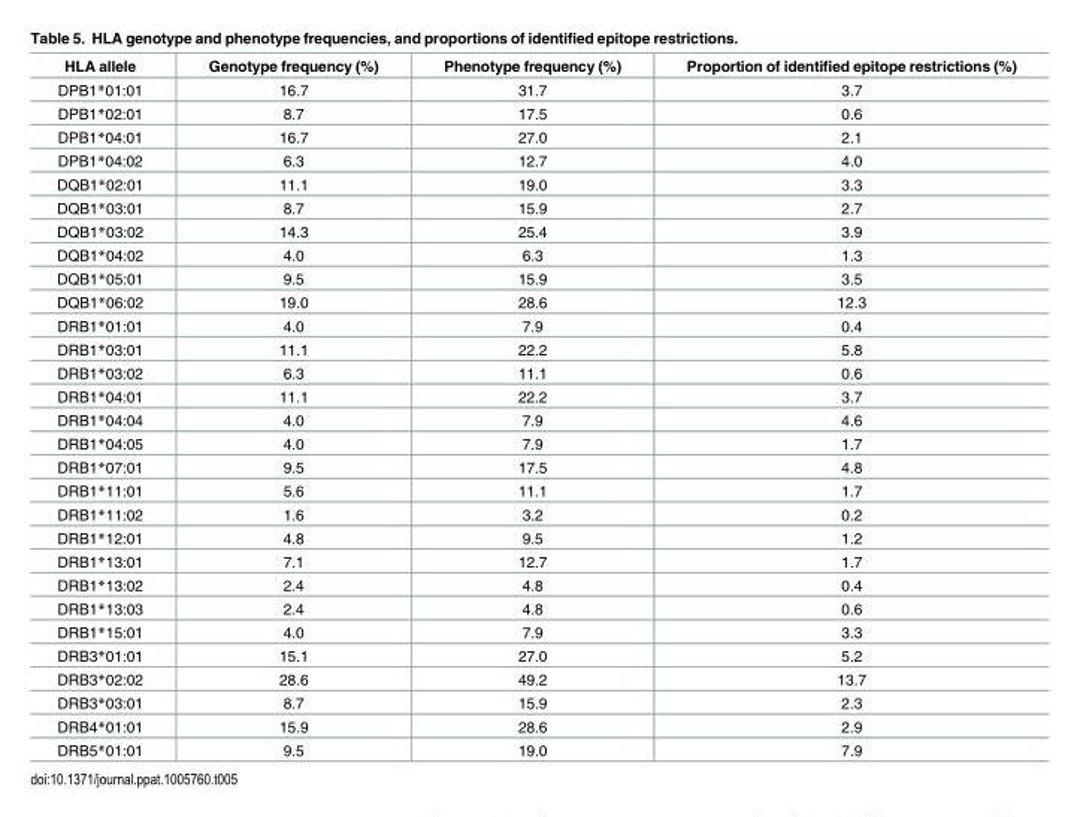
<table><thead><tr><td>HLA allele</td><td>Genotype frequency (%)</td><td>Phenotype frequency (%)</td><td>Proportion of identified epitope restrictions (%)</td></tr></thead><tbody><tr><td>DPB1*01:01</td><td>16.7</td><td>31.7</td><td>3.7</td></tr><tr><td>DPB1*02:01</td><td>8.7</td><td>17.5</td><td>0.6</td></tr><tr><td>DPB1*04:01</td><td>16.7</td><td>27.0</td><td>2.1</td></tr><tr><td>DPB1*04:02</td><td>6.3</td><td>12.7</td><td>4.0</td></tr><tr><td>DQB1*02:01</td><td>11.1</td><td>19.0</td><td>3.3</td></tr><tr><td>DQB1*03:01</td><td>8.7</td><td>15.9</td><td>2.7</td></tr><tr><td>DQB1*03:02</td><td>14.3</td><td>25.4</td><td>3.9</td></tr><tr><td>DQB1*04:02</td><td>4.0</td><td>6.3</td><td>1.3</td></tr><tr><td>DQB1*05:01</td><td>9.5</td><td>15.9</td><td>3.5</td></tr><tr><td>DQB1*06:02</td><td>19.0</td><td>28.6</td><td>12.3</td></tr><tr><td>DRB1*01:01</td><td>4.0</td><td>7.9</td><td>0.4</td></tr><tr><td>DRB1*03:01</td><td>11.1</td><td>22.2</td><td>5.8</td></tr><tr><td>DRB1*03:02</td><td>6.3</td><td>11.1</td><td>0.6</td></tr><tr><td>DRB1*04:01</td><td>11.1</td><td>22.2</td><td>3.7</td></tr><tr><td>DRB1*04:04</td><td>4.0</td><td>7.9</td><td>4.6</td></tr><tr><td>DRB1*04:05</td><td>4.0</td><td>7.9</td><td>1.7</td></tr><tr><td>DRB1*07:01</td><td>9.5</td><td>17.5</td><td>4.8</td></tr><tr><td>DRB1*11:01</td><td>5.6</td><td>11.1</td><td>1.7</td></tr><tr><td>DRB1*11:02</td><td>1.6</td><td>3.2</td><td>0.2</td></tr><tr><td>DRB1*12:01</td><td>4.8</td><td>9.5</td><td>1.2</td></tr><tr><td>DRB1*13:01</td><td>7.1</td><td>12.7</td><td>1.7</td></tr><tr><td>DRB1*13:02</td><td>2.4</td><td>4.8</td><td>0.4</td></tr><tr><td>DRB1*13:03</td><td>2.4</td><td>4.8</td><td>0.6</td></tr><tr><td>DRB1*15:01</td><td>4.0</td><td>7.9</td><td>3.3</td></tr><tr><td>DRB3*01:01</td><td>15.1</td><td>27.0</td><td>5.2</td></tr><tr><td>DRB3*02:02</td><td>28.6</td><td>49.2</td><td>13.7</td></tr><tr><td>DRB3*03:01</td><td>8.7</td><td>15.9</td><td>2.3</td></tr><tr><td>DRB4*01:01</td><td>15.9</td><td>28.6</td><td>2.9</td></tr><tr><td>DRB5*01:01</td><td>9.5</td><td>19.0</td><td>7.9</td></tr></tbody></table>